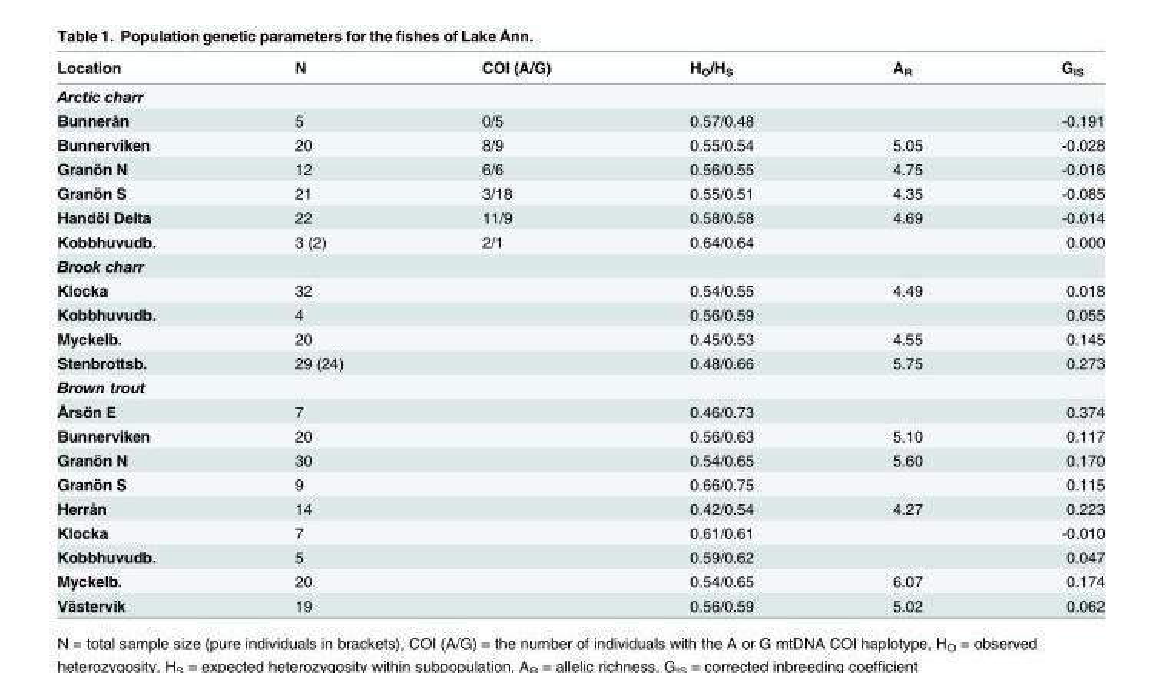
<table><thead><tr><td>Location</td><td>N</td><td>COI (A/G)</td><td>H<sub>O</sub>/H<sub>S</sub></td><td>A<sub>R</sub></td><td>G<sub>IS</sub></td></tr></thead><tbody><tr><td colspan="6">Arctic charr</td></tr><tr><td>Bunnerån</td><td>5</td><td>0/5</td><td>0.57/0.48</td><td></td><td>-0.191</td></tr><tr><td>Bunnerviken</td><td>20</td><td>8/9</td><td>0.55/0.54</td><td>5.05</td><td>-0.028</td></tr><tr><td>Granön N</td><td>12</td><td>6/6</td><td>0.56/0.55</td><td>4.75</td><td>-0.016</td></tr><tr><td>Granön S</td><td>21</td><td>3/18</td><td>0.55/0.51</td><td>4.35</td><td>-0.085</td></tr><tr><td>Handöl Delta</td><td>22</td><td>11/9</td><td>0.58/0.58</td><td>4.69</td><td>-0.014</td></tr><tr><td>Kobbhuvudb.</td><td>3 (2)</td><td>2/1</td><td>0.64/0.64</td><td></td><td>0.000</td></tr><tr><td colspan="6">Brook charr</td></tr><tr><td>Klocka</td><td>32</td><td></td><td>0.54/0.55</td><td>4.49</td><td>0.018</td></tr><tr><td>Kobbhuvudb.</td><td>4</td><td></td><td>0.56/0.59</td><td></td><td>0.055</td></tr><tr><td>Myckelb.</td><td>20</td><td></td><td>0.45/0.53</td><td>4.55</td><td>0.145</td></tr><tr><td>Stenbrottsb.</td><td>29 (24)</td><td></td><td>0.48/0.66</td><td>5.75</td><td>0.273</td></tr><tr><td colspan="6">Brown trout</td></tr><tr><td>Årsön E</td><td>7</td><td></td><td>0.46/0.73</td><td></td><td>0.374</td></tr><tr><td>Bunnerviken</td><td>20</td><td></td><td>0.56/0.63</td><td>5.10</td><td>0.117</td></tr><tr><td>Granön N</td><td>30</td><td></td><td>0.54/0.65</td><td>5.60</td><td>0.170</td></tr><tr><td>Granön S</td><td>9</td><td></td><td>0.66/0.75</td><td></td><td>0.115</td></tr><tr><td>Herrån</td><td>14</td><td></td><td>0.42/0.54</td><td>4.27</td><td>0.223</td></tr><tr><td>Klocka</td><td>7</td><td></td><td>0.61/0.61</td><td></td><td>-0.010</td></tr><tr><td>Kobbhuvudb.</td><td>5</td><td></td><td>0.59/0.62</td><td></td><td>0.047</td></tr><tr><td>Myckelb.</td><td>20</td><td></td><td>0.54/0.65</td><td>6.07</td><td>0.174</td></tr><tr><td>Västervik</td><td>19</td><td></td><td>0.56/0.59</td><td>5.02</td><td>0.062</td></tr></tbody></table>